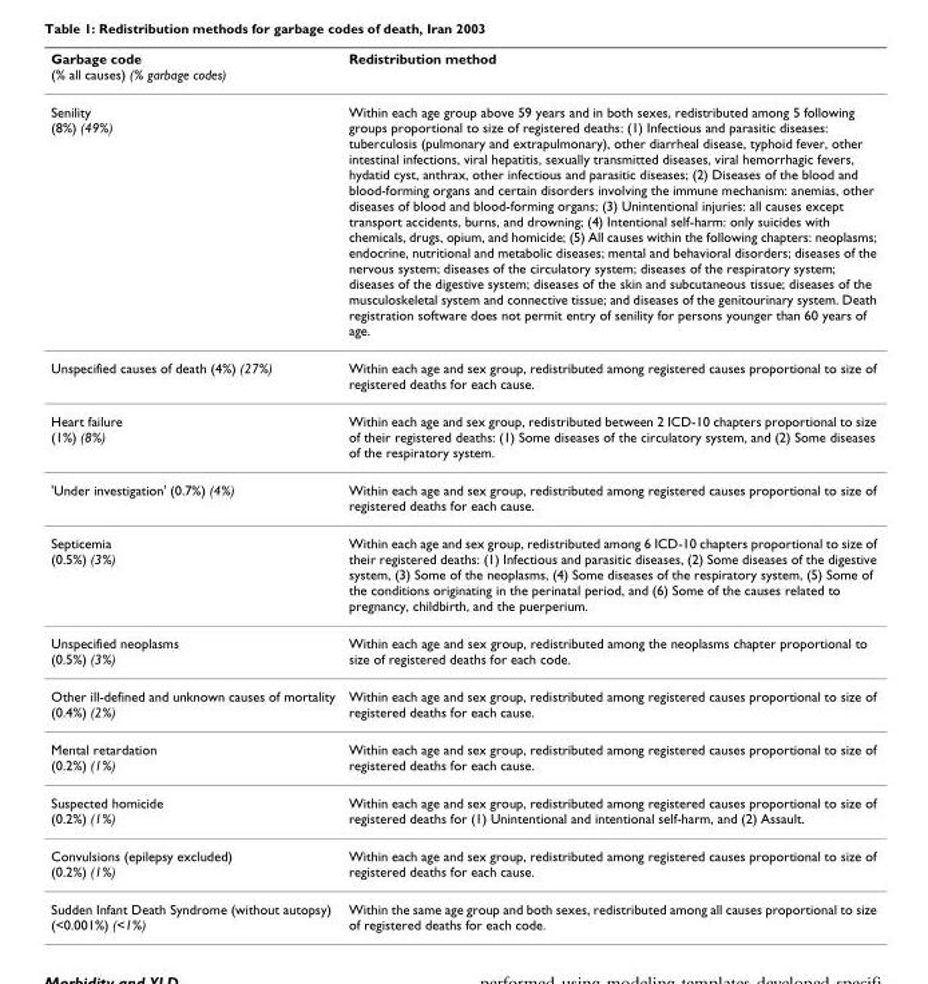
<table><thead><tr><td>Garbage code (% all causes) (% garbage codes)</td><td>Redistribution method</td></tr></thead><tbody><tr><td>Senility (8%) (49%)</td><td>Within each age group above 59 years and in both sexes, redistributed among 5 following groups proportional to size of registered deaths: (1) Infectious and parasitic diseases: tuberculosis (pulmonary and extrapulmonary), other diarrheal disease, typhoid fever, other intestinal infections, viral hepatitis, sexually transmitted diseases, viral hemorrhagic fevers, hydatid cyst, anthrax, other infectious and parasitic diseases; (2) Diseases of the blood and blood-forming organs and certain disorders involving the immune mechanism: anemias, other diseases of blood and blood-forming organs; (3) Unintentional injuries: all causes except transport accidents, burns, and drowning; (4) Intentional self-harm: only suicides with chemicals, drugs, opium, and homicide; (5) All causes within the following chapters: neoplasms; endocrine, nutritional and metabolic diseases; mental and behavioral disorders; diseases of the nervous system; diseases of the circulatory system; diseases of the respiratory system; diseases of the digestive system; diseases of the skin and subcutaneous tissue; diseases of the musculoskeletal system and connective tissue; and diseases of the genitourinary system. Death registration software does not permit entry of senility for persons younger than 60 years of age.</td></tr><tr><td>Unspecified causes of death (4%) (27%)</td><td>Within each age and sex group, redistributed among registered causes proportional to size of registered deaths for each cause.</td></tr><tr><td>Heart failure (1%) (8%)</td><td>Within each age and sex group, redistributed between 2 ICD-10 chapters proportional to size of their registered deaths: (1) Some diseases of the circulatory system, and (2) Some diseases of the respiratory system.</td></tr><tr><td>&#x27;Under investigation&#x27; (0.7%) (4%)</td><td>Within each age and sex group, redistributed among registered causes proportional to size of registered deaths for each cause.</td></tr><tr><td>Septicemia (0.5%) (3%)</td><td>Within each age and sex group, redistributed among 6 ICD-10 chapters proportional to size of their registered deaths: (1) Infectious and parasitic diseases, (2) Some diseases of the digestive system, (3) Some of the neoplasms, (4) Some diseases of the respiratory system, (5) Some of the conditions originating in the perinatal period, and (6) Some of the causes related to pregnancy, childbirth, and the puerperium.</td></tr><tr><td>Unspecified neoplasms (0.5%) (3%)</td><td>Within each age and sex group, redistributed among the neoplasms chapter proportional to size of registered deaths for each code.</td></tr><tr><td>Other ill-defined and unknown causes of mortality (0.4%) (2%)</td><td>Within each age and sex group, redistributed among registered causes proportional to size of registered deaths for each cause.</td></tr><tr><td>Mental retardation (0.2%) (1%)</td><td>Within each age and sex group, redistributed among registered causes proportional to size of registered deaths for each cause.</td></tr><tr><td>Suspected homicide (0.2%) (1%)</td><td>Within each age and sex group, redistributed among registered causes proportional to size of registered deaths for (1) Unintentional and intentional self-harm, and (2) Assault.</td></tr><tr><td>Convulsions (epilepsy excluded) (0.2%) (1%)</td><td>Within each age and sex group, redistributed among registered causes proportional to size of registered deaths for each cause.</td></tr><tr><td>Sudden Infant Death Syndrome (without autopsy) (&lt;0.001%) (&lt;1%)</td><td>Within the same age group and both sexes, redistributed among all causes proportional to size of registered deaths for each code.</td></tr></tbody></table>